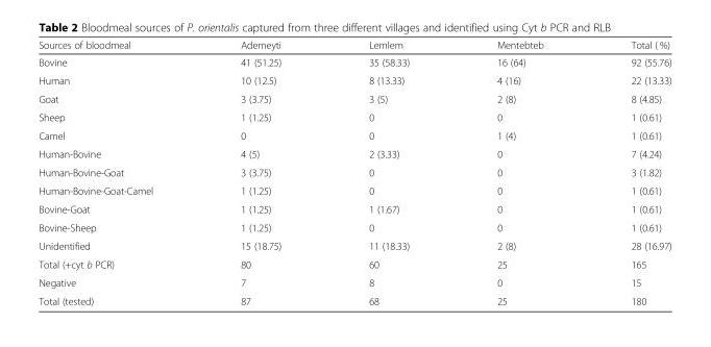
<table><thead><tr><td>Sources of bloodmeal</td><td>Ademeyti</td><td>Lemlem</td><td>Mentebteb</td><td>Total ( %)</td></tr></thead><tbody><tr><td>Bovine</td><td>41 (51.25)</td><td>35 (58.33)</td><td>16 (64)</td><td>92 (55.76)</td></tr><tr><td>Human</td><td>10 (12.5)</td><td>8 (13.33)</td><td>4 (16)</td><td>22 (13.33)</td></tr><tr><td>Goat</td><td>3 (3.75)</td><td>3 (5)</td><td>2 (8)</td><td>8 (4.85)</td></tr><tr><td>Sheep</td><td>1 (1.25)</td><td>0</td><td>0</td><td>1 (0.61)</td></tr><tr><td>Camel</td><td>0</td><td>0</td><td>1 (4)</td><td>1 (0.61)</td></tr><tr><td>Human-Bovine</td><td>4 (5)</td><td>2 (3.33)</td><td>0</td><td>7 (4.24)</td></tr><tr><td>Human-Bovine-Goat</td><td>3 (3.75)</td><td>0</td><td>0</td><td>3 (1.82)</td></tr><tr><td>Human-Bovine-Goat-Camel</td><td>1 (1.25)</td><td>0</td><td>0</td><td>1 (0.61)</td></tr><tr><td>Bovine-Goat</td><td>1 (1.25)</td><td>1 (1.67)</td><td>0</td><td>1 (0.61)</td></tr><tr><td>Bovine-Sheep</td><td>1 (1.25)</td><td>0</td><td>0</td><td>1 (0.61)</td></tr><tr><td>Unidentified</td><td>15 (18.75)</td><td>11 (18.33)</td><td>2 (8)</td><td>28 (16.97)</td></tr><tr><td>Total (+cyt b PCR)</td><td>80</td><td>60</td><td>25</td><td>165</td></tr><tr><td>Negative</td><td>7</td><td>8</td><td>0</td><td>15</td></tr><tr><td>Total (tested)</td><td>87</td><td>68</td><td>25</td><td>180</td></tr></tbody></table>